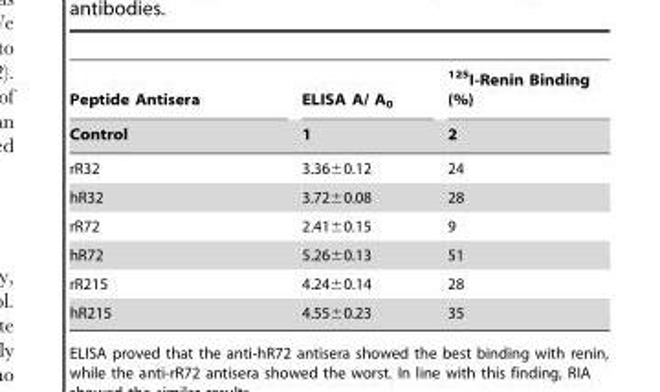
<table><thead><tr><td rowspan="2">Peptide Antisera Control</td><td rowspan="2">ELISA A/ A<sub>0</sub> 1</td><td rowspan="2"><sup>125</sup>I-Renin Binding (%) 2</td></tr><tr></tr></thead><tbody><tr><td>rR32</td><td>3.36±0.12</td><td>24</td></tr><tr><td>hR32</td><td>3.72±0.08</td><td>28</td></tr><tr><td>rR72</td><td>2.41±0.15</td><td>9</td></tr><tr><td>hR72</td><td>5.26±0.13</td><td>51</td></tr><tr><td>rR215</td><td>4.24±0.14</td><td>28</td></tr><tr><td>hR215</td><td>4.55±0.23</td><td>35</td></tr></tbody></table>